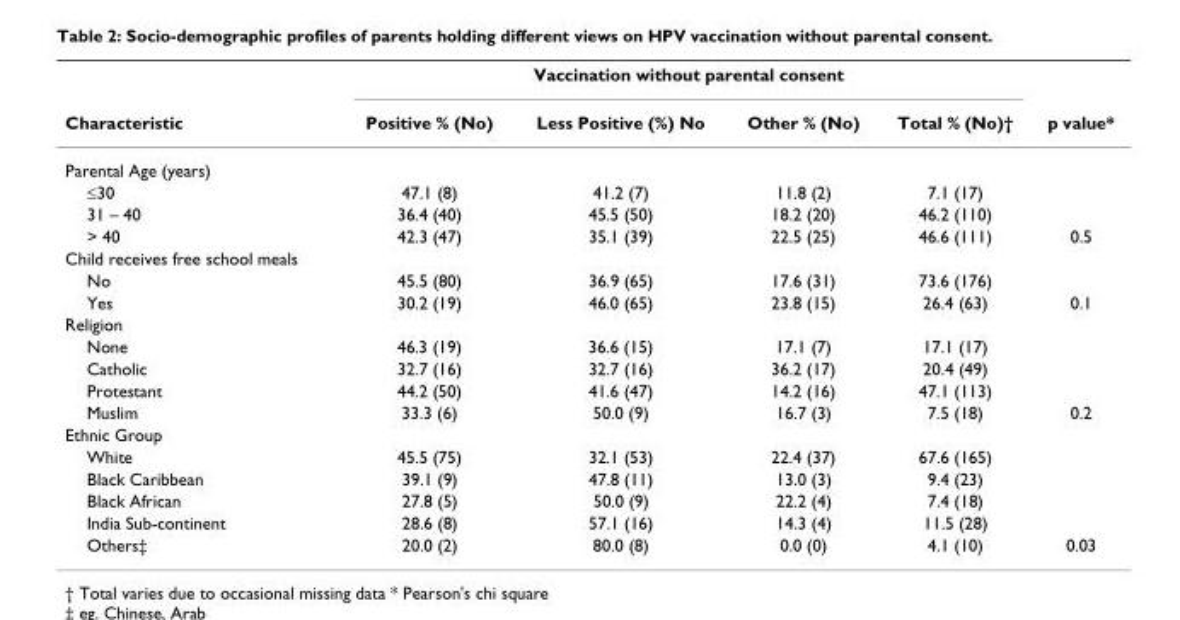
<table><thead><tr><td rowspan="2">Characteristic</td><td colspan="4">Vaccination without parental consent</td><td rowspan="2">p value*</td></tr><tr><td>Positive % (No)</td><td>Less Positive (%) No</td><td>Other % (No)</td><td>Total % (No)†</td></tr></thead><tbody><tr><td colspan="6">Parental Age (years)</td></tr><tr><td>≤30</td><td>47.1 (8)</td><td>41.2 (7)</td><td>11.8 (2)</td><td>7.1 (17)</td><td></td></tr><tr><td>31 – 40</td><td>36.4 (40)</td><td>45.5 (50)</td><td>18.2 (20)</td><td>46.2 (110)</td><td></td></tr><tr><td>&gt; 40</td><td>42.3 (47)</td><td>35.1 (39)</td><td>22.5 (25)</td><td>46.6 (111)</td><td>0.5</td></tr><tr><td colspan="6">Child receives free school meals</td></tr><tr><td>No</td><td>45.5 (80)</td><td>36.9 (65)</td><td>17.6 (31)</td><td>73.6 (176)</td><td></td></tr><tr><td>Yes</td><td>30.2 (19)</td><td>46.0 (65)</td><td>23.8 (15)</td><td>26.4 (63)</td><td>0.1</td></tr><tr><td colspan="6">Religion</td></tr><tr><td>None</td><td>46.3 (19)</td><td>36.6 (15)</td><td>17.1 (7)</td><td>17.1 (17)</td><td></td></tr><tr><td>Catholic</td><td>32.7 (16)</td><td>32.7 (16)</td><td>36.2 (17)</td><td>20.4 (49)</td><td></td></tr><tr><td>Protestant</td><td>44.2 (50)</td><td>41.6 (47)</td><td>14.2 (16)</td><td>47.1 (113)</td><td></td></tr><tr><td>Muslim</td><td>33.3 (6)</td><td>50.0 (9)</td><td>16.7 (3)</td><td>7.5 (18)</td><td>0.2</td></tr><tr><td colspan="6">Ethnic Group</td></tr><tr><td>White</td><td>45.5 (75)</td><td>32.1 (53)</td><td>22.4 (37)</td><td>67.6 (165)</td><td></td></tr><tr><td>Black Caribbean</td><td>39.1 (9)</td><td>47.8 (11)</td><td>13.0 (3)</td><td>9.4 (23)</td><td></td></tr><tr><td>Black African</td><td>27.8 (5)</td><td>50.0 (9)</td><td>22.2 (4)</td><td>7.4 (18)</td><td></td></tr><tr><td>India Sub-continent</td><td>28.6 (8)</td><td>57.1 (16)</td><td>14.3 (4)</td><td>11.5 (28)</td><td></td></tr><tr><td>Others‡</td><td>20.0 (2)</td><td>80.0 (8)</td><td>0.0 (0)</td><td>4.1 (10)</td><td>0.03</td></tr></tbody></table>